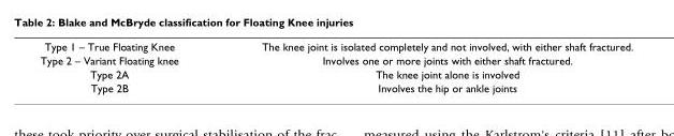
<table><tbody><tr><td>Type 1 – True Floating Knee</td><td>The knee joint is isolated completely and not involved, with either shaft fractured.</td></tr><tr><td>Type 2 – Variant Floating knee</td><td>Involves one or more joints with either shaft fractured.</td></tr><tr><td>Type 2A</td><td>The knee joint alone is involved</td></tr><tr><td>Type 2B</td><td>Involves the hip or ankle joints</td></tr></tbody></table>